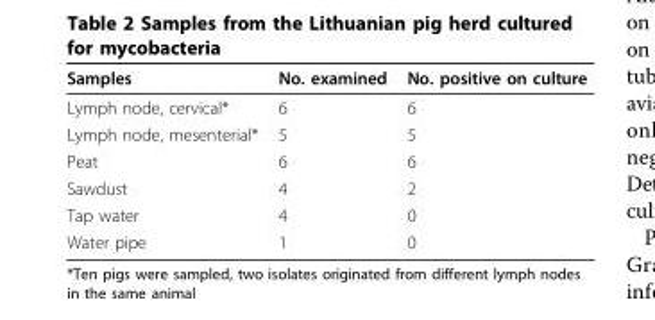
<table><thead><tr><td>Samples</td><td>No. examined</td><td>No. positive on culture</td></tr></thead><tbody><tr><td>Lymph node, cervical*</td><td>6</td><td>6</td></tr><tr><td>Lymph node, mesenterial*</td><td>5</td><td>5</td></tr><tr><td>Peat</td><td>6</td><td>6</td></tr><tr><td>Sawdust</td><td>4</td><td>2</td></tr><tr><td>Tap water</td><td>4</td><td>0</td></tr><tr><td>Water pipe</td><td>1</td><td>0</td></tr></tbody></table>